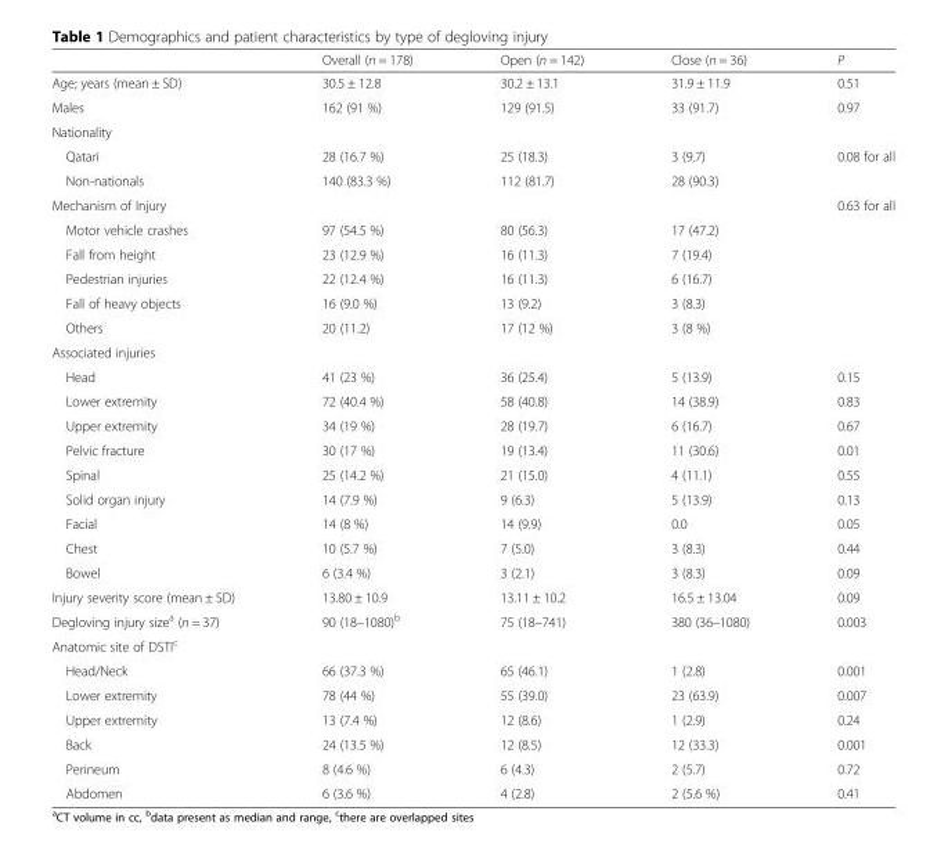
<table><thead><tr><td></td><td>Overall (n = 178)</td><td>Open (n = 142)</td><td>Close (n = 36)</td><td>P</td></tr></thead><tbody><tr><td>Age; years (mean ± SD)</td><td>30.5 ± 12.8</td><td>30.2 ± 13.1</td><td>31.9 ± 11.9</td><td>0.51</td></tr><tr><td>Males</td><td>162 (91 %)</td><td>129 (91.5)</td><td>33 (91.7)</td><td>0.97</td></tr><tr><td colspan="5">Nationality</td></tr><tr><td>Qatari</td><td>28 (16.7 %)</td><td>25 (18.3)</td><td>3 (9.7)</td><td rowspan="2">0.08 for all</td></tr><tr><td>Non-nationals</td><td>140 (83.3 %)</td><td>112 (81.7)</td><td>28 (90.3)</td></tr><tr><td colspan="4">Mechanism of Injury</td><td rowspan="5">0.63 for all</td></tr><tr><td>Motor vehicle crashes</td><td>97 (54.5 %)</td><td>80 (56.3)</td><td>17 (47.2)</td></tr><tr><td>Fall from height</td><td>23 (12.9 %)</td><td>16 (11.3)</td><td>7 (19.4)</td></tr><tr><td>Pedestrian injuries</td><td>22 (12.4 %)</td><td>16 (11.3)</td><td>6 (16.7)</td></tr><tr><td>Fall of heavy objects</td><td>16 (9.0 %)</td><td>13 (9.2)</td><td>3 (8.3)</td></tr><tr><td>Others</td><td>20 (11.2)</td><td>17 (12 %)</td><td>3 (8 %)</td><td></td></tr><tr><td colspan="5">Associated injuries</td></tr><tr><td>Head</td><td>41 (23 %)</td><td>36 (25.4)</td><td>5 (13.9)</td><td>0.15</td></tr><tr><td>Lower extremity</td><td>72 (40.4 %)</td><td>58 (40.8)</td><td>14 (38.9)</td><td>0.83</td></tr><tr><td>Upper extremity</td><td>34 (19 %)</td><td>28 (19.7)</td><td>6 (16.7)</td><td>0.67</td></tr><tr><td>Pelvic fracture</td><td>30 (17 %)</td><td>19 (13.4)</td><td>11 (30.6)</td><td>0.01</td></tr><tr><td>Spinal</td><td>25 (14.2 %)</td><td>21 (15.0)</td><td>4 (11.1)</td><td>0.55</td></tr><tr><td>Solid organ injury</td><td>14 (7.9 %)</td><td>9 (6.3)</td><td>5 (13.9)</td><td>0.13</td></tr><tr><td>Facial</td><td>14 (8 %)</td><td>14 (9.9)</td><td>0.0</td><td>0.05</td></tr><tr><td>Chest</td><td>10 (5.7 %)</td><td>7 (5.0)</td><td>3 (8.3)</td><td>0.44</td></tr><tr><td>Bowel</td><td>6 (3.4 %)</td><td>3 (2.1)</td><td>3 (8.3)</td><td>0.09</td></tr><tr><td>Injury severity score (mean ± SD)</td><td>13.80 ± 10.9</td><td>13.11 ± 10.2</td><td>16.5 ± 13.04</td><td>0.09</td></tr><tr><td>Degloving injury size<sup>a</sup> (n = 37)</td><td>90 (18–1080)<sup>b</sup></td><td>75 (18–741)</td><td>380 (36–1080)</td><td>0.003</td></tr><tr><td colspan="5">Anatomic site of DSTI<sup>c</sup></td></tr><tr><td>Head/Neck</td><td>66 (37.3 %)</td><td>65 (46.1)</td><td>1 (2.8)</td><td>0.001</td></tr><tr><td>Lower extremity</td><td>78 (44 %)</td><td>55 (39.0)</td><td>23 (63.9)</td><td>0.007</td></tr><tr><td>Upper extremity</td><td>13 (7.4 %)</td><td>12 (8.6)</td><td>1 (2.9)</td><td>0.24</td></tr><tr><td>Back</td><td>24 (13.5 %)</td><td>12 (8.5)</td><td>12 (33.3)</td><td>0.001</td></tr><tr><td>Perineum</td><td>8 (4.6 %)</td><td>6 (4.3)</td><td>2 (5.7)</td><td>0.72</td></tr><tr><td>Abdomen</td><td>6 (3.6 %)</td><td>4 (2.8)</td><td>2 (5.6 %)</td><td>0.41</td></tr></tbody></table>